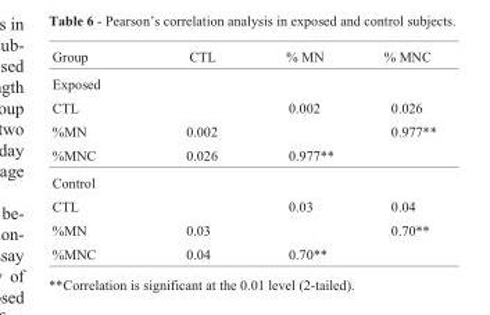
<table><thead><tr><td>Group</td><td>CTL</td><td>% MN</td><td>% MNC</td></tr></thead><tbody><tr><td colspan="4">Exposed</td></tr><tr><td>CTL</td><td></td><td>0.002</td><td>0.026</td></tr><tr><td>%MN</td><td>0.002</td><td></td><td>0.977**</td></tr><tr><td>%MNC</td><td>0.026</td><td>0.977**</td><td></td></tr><tr><td colspan="4">Control</td></tr><tr><td>CTL</td><td></td><td>0.03</td><td>0.04</td></tr><tr><td>%MN</td><td>0.03</td><td></td><td>0.70**</td></tr><tr><td>%MNC</td><td>0.04</td><td>0.70**</td><td></td></tr></tbody></table>